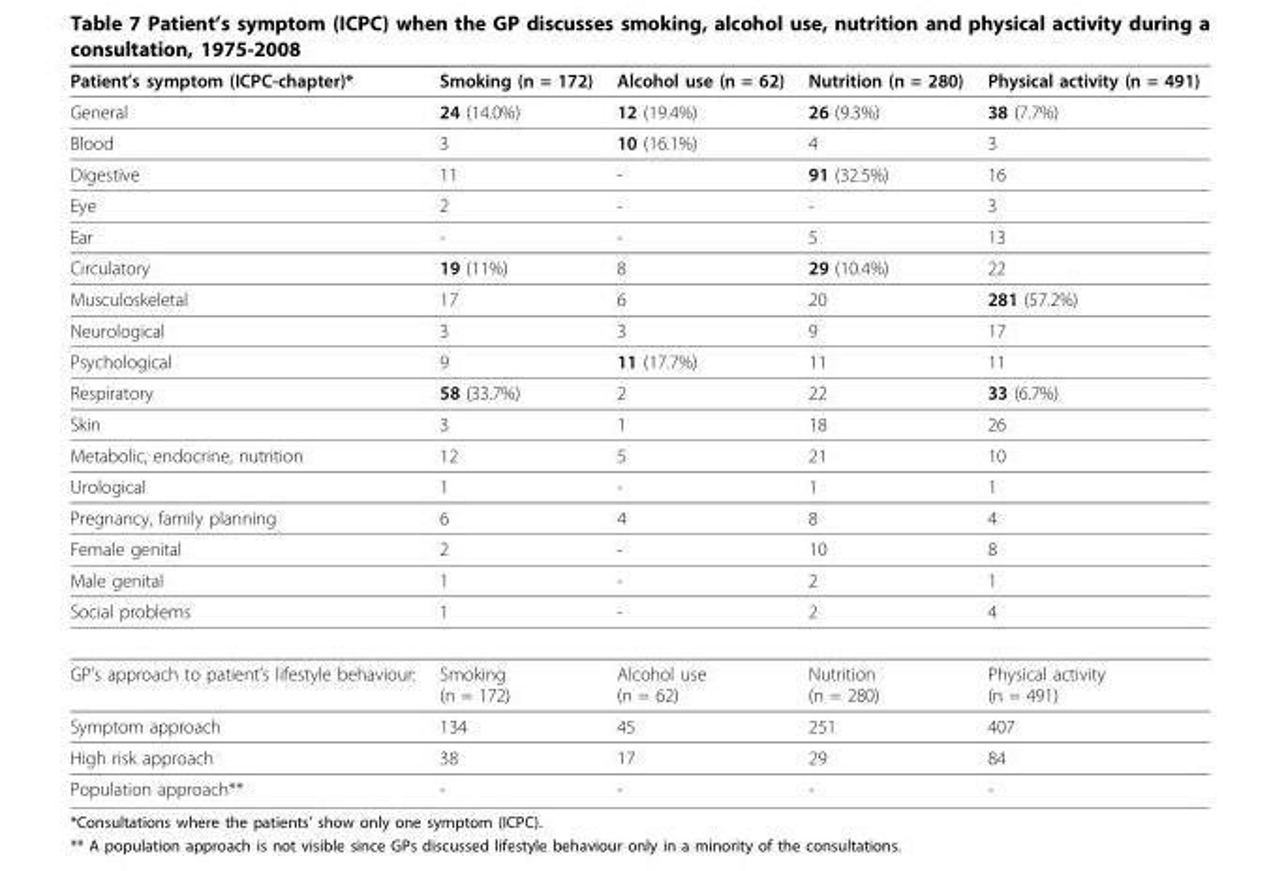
<table><thead><tr><td>Patient’s symptom (ICPC-chapter)*</td><td>Smoking (n = 172)</td><td>Alcohol use (n = 62)</td><td>Nutrition (n = 280)</td><td>Physical activity (n = 491)</td></tr></thead><tbody><tr><td>General</td><td>24 (14.0%)</td><td>12 (19.4%)</td><td>26 (9.3%)</td><td>38 (7.7%)</td></tr><tr><td>Blood</td><td>3</td><td>10 (16.1%)</td><td>4</td><td>3</td></tr><tr><td>Digestive</td><td>11</td><td>-</td><td>91 (32.5%)</td><td>16</td></tr><tr><td>Eye</td><td>2</td><td>-</td><td>-</td><td>3</td></tr><tr><td>Ear</td><td>-</td><td>-</td><td>5</td><td>13</td></tr><tr><td>Circulatory</td><td>19 (11%)</td><td>8</td><td>29 (10.4%)</td><td>22</td></tr><tr><td>Musculoskeletal</td><td>17</td><td>6</td><td>20</td><td>281 (57.2%)</td></tr><tr><td>Neurological</td><td>3</td><td>3</td><td>9</td><td>17</td></tr><tr><td>Psychological</td><td>9</td><td>11 (17.7%)</td><td>11</td><td>11</td></tr><tr><td>Respiratory</td><td>58 (33.7%)</td><td>2</td><td>22</td><td>33 (6.7%)</td></tr><tr><td>Skin</td><td>3</td><td>1</td><td>18</td><td>26</td></tr><tr><td>Metabolic, endocrine, nutrition</td><td>12</td><td>5</td><td>21</td><td>10</td></tr><tr><td>Urological</td><td>1</td><td>-</td><td>1</td><td>1</td></tr><tr><td>Pregnancy, family planning</td><td>6</td><td>4</td><td>8</td><td>4</td></tr><tr><td>Female genital</td><td>2</td><td>-</td><td>10</td><td>8</td></tr><tr><td>Male genital</td><td>1</td><td>-</td><td>2</td><td>1</td></tr><tr><td>Social problems</td><td>1</td><td>-</td><td>2</td><td>4</td></tr><tr><td>GP’s approach to patient’s lifestyle behaviour:</td><td>Smoking (n = 172)</td><td>Alcohol use (n = 62)</td><td>Nutrition (n = 280)</td><td>Physical activity (n = 491)</td></tr><tr><td>Symptom approach</td><td>134</td><td>45</td><td>251</td><td>407</td></tr><tr><td>High risk approach</td><td>38</td><td>17</td><td>29</td><td>84</td></tr><tr><td>Population approach**</td><td>-</td><td>-</td><td>-</td><td>-</td></tr></tbody></table>